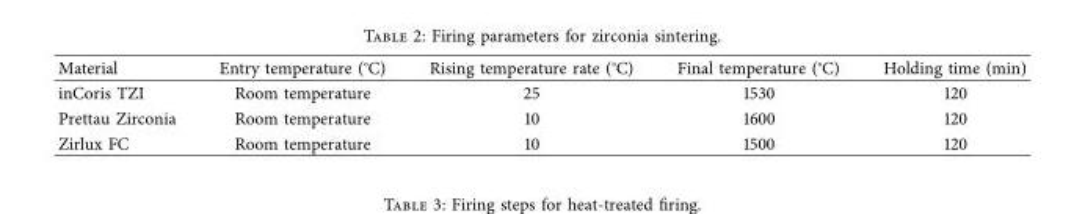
<table><thead><tr><td>Material</td><td>Entry temperature (°C)</td><td>Rising temperature rate (°C)</td><td>Final temperature (°C)</td><td>Holding time (min)</td></tr></thead><tbody><tr><td>inCoris TZI</td><td>Room temperature</td><td>25</td><td>1530</td><td>120</td></tr><tr><td>Prettau Zirconia</td><td>Room temperature</td><td>10</td><td>1600</td><td>120</td></tr><tr><td>Zirlux FC</td><td>Room temperature</td><td>10</td><td>1500</td><td>120</td></tr></tbody></table>